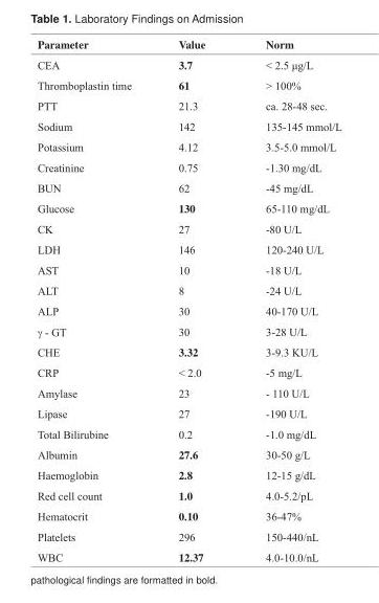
<table><thead><tr><td>Parameter</td><td>Value</td><td>Norm</td></tr></thead><tbody><tr><td>CEA</td><td>3.7</td><td>&lt; 2.5 μg/L</td></tr><tr><td>Thromboplastin time</td><td>61</td><td>&gt; 100%</td></tr><tr><td>PTT</td><td>21.3</td><td>ca. 28-48 sec.</td></tr><tr><td>Sodium</td><td>142</td><td>135-145 mmol/L</td></tr><tr><td>Potassium</td><td>4.12</td><td>3.5-5.0 mmol/L</td></tr><tr><td>Creatinine</td><td>0.75</td><td>-1.30 mg/dL</td></tr><tr><td>BUN</td><td>62</td><td>-45 mg/dL</td></tr><tr><td>Glucose</td><td>130</td><td>65-110 mg/dL</td></tr><tr><td>CK</td><td>27</td><td>-80 U/L</td></tr><tr><td>LDH</td><td>146</td><td>120-240 U/L</td></tr><tr><td>AST</td><td>10</td><td>-18 U/L</td></tr><tr><td>ALT</td><td>8</td><td>-24 U/L</td></tr><tr><td>ALP</td><td>30</td><td>40-170 U/L</td></tr><tr><td>γ - GT</td><td>30</td><td>3-28 U/L</td></tr><tr><td>CHE</td><td>3.32</td><td>3-9.3 KU/L</td></tr><tr><td>CRP</td><td>&lt; 2.0</td><td>-5 mg/L</td></tr><tr><td>Amylase</td><td>23</td><td>- 110 U/L</td></tr><tr><td>Lipase</td><td>27</td><td>-190 U/L</td></tr><tr><td>Total Bilirubine</td><td>0.2</td><td>-1.0 mg/dL</td></tr><tr><td>Albumin</td><td>27.6</td><td>30-50 g/L</td></tr><tr><td>Haemoglobin</td><td>2.8</td><td>12-15 g/dL</td></tr><tr><td>Red cell count</td><td>1.0</td><td>4.0-5.2/pL</td></tr><tr><td>Hematocrit</td><td>0.10</td><td>36-47%</td></tr><tr><td>Platelets</td><td>296</td><td>150-440/nL</td></tr><tr><td>WBC</td><td>12.37</td><td>4.0-10.0/nL</td></tr></tbody></table>